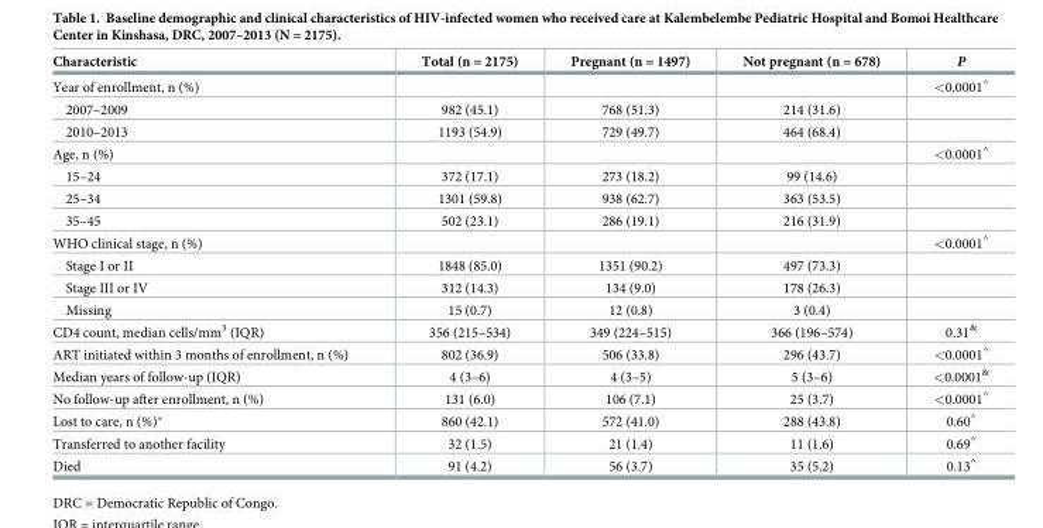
<table><thead><tr><td>Characteristic</td><td>Total (n = 2175)</td><td>Pregnant (n = 1497)</td><td>Not pregnant (n = 678)</td><td>P</td></tr></thead><tbody><tr><td>Year of enrollment, n (%)</td><td></td><td></td><td></td><td>&lt;0.0001<sup>^</sup></td></tr><tr><td>2007–2009</td><td>982 (45.1)</td><td>768 (51.3)</td><td>214 (31.6)</td><td></td></tr><tr><td>2010–2013</td><td>1193 (54.9)</td><td>729 (49.7)</td><td>464 (68.4)</td><td></td></tr><tr><td>Age, n (%)</td><td></td><td></td><td></td><td>&lt;0.0001<sup>^</sup></td></tr><tr><td>15–24</td><td>372 (17.1)</td><td>273 (18.2)</td><td>99 (14.6)</td><td></td></tr><tr><td>25–34</td><td>1301 (59.8)</td><td>938 (62.7)</td><td>363 (53.5)</td><td></td></tr><tr><td>35–45</td><td>502 (23.1)</td><td>286 (19.1)</td><td>216 (31.9)</td><td></td></tr><tr><td>WHO clinical stage, n (%)</td><td></td><td></td><td></td><td>&lt;0.0001<sup>^</sup></td></tr><tr><td>Stage I or II</td><td>1848 (85.0)</td><td>1351 (90.2)</td><td>497 (73.3)</td><td></td></tr><tr><td>Stage III or IV</td><td>312 (14.3)</td><td>134 (9.0)</td><td>178 (26.3)</td><td></td></tr><tr><td>Missing</td><td>15 (0.7)</td><td>12 (0.8)</td><td>3 (0.4)</td><td></td></tr><tr><td>CD4 count, median cells/mm<sup>3</sup> (IQR)</td><td>356 (215–534)</td><td>349 (224–515)</td><td>366 (196–574)</td><td>0.31<sup>&amp;</sup></td></tr><tr><td>ART initiated within 3 months of enrollment, n (%)</td><td>802 (36.9)</td><td>506 (33.8)</td><td>296 (43.7)</td><td>&lt;0.0001<sup>^</sup></td></tr><tr><td>Median years of follow-up (IQR)</td><td>4 (3–6)</td><td>4 (3–5)</td><td>5 (3–6)</td><td>&lt;0.0001<sup>&amp;</sup></td></tr><tr><td>No follow-up after enrollment, n (%)</td><td>131 (6.0)</td><td>106 (7.1)</td><td>25 (3.7)</td><td>&lt;0.0001<sup>^</sup></td></tr><tr><td>Lost to care, n (%)*</td><td>860 (42.1)</td><td>572 (41.0)</td><td>288 (43.8)</td><td>0.60<sup>^</sup></td></tr><tr><td>Transferred to another facility</td><td>32 (1.5)</td><td>21 (1.4)</td><td>11 (1.6)</td><td>0.69<sup>^</sup></td></tr><tr><td>Died</td><td>91 (4.2)</td><td>56 (3.7)</td><td>35 (5.2)</td><td>0.13<sup>^</sup></td></tr></tbody></table>